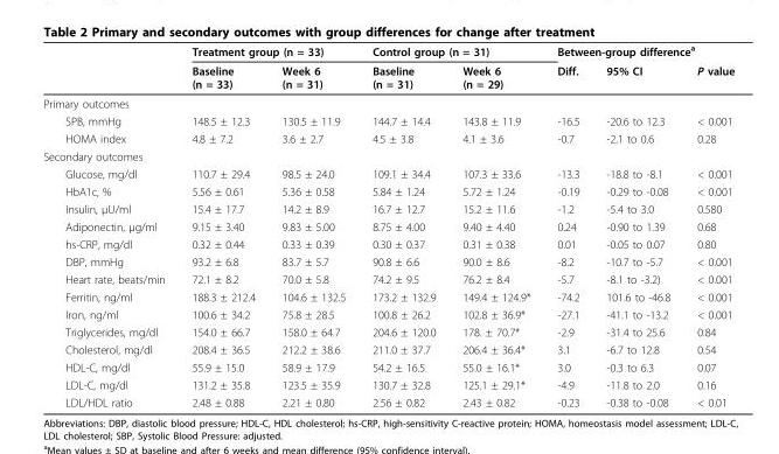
<table><thead><tr><td rowspan="2"></td><td colspan="2">Treatment group (n = 33)</td><td colspan="2">Control group (n = 31)</td><td colspan="3">Between-group difference<sup>a</sup></td></tr><tr><td>Baseline (n = 33)</td><td>Week 6 (n = 31)</td><td>Baseline (n = 31)</td><td>Week 6 (n = 29)</td><td>Diff.</td><td>95% CI</td><td>P value</td></tr></thead><tbody><tr><td colspan="8">Primary outcomes</td></tr><tr><td>SPB, mmHg</td><td>148.5 ± 12.3</td><td>130.5 ± 11.9</td><td>144.7 ± 14.4</td><td>143.8 ± 11.9</td><td>-16.5</td><td>-20.6 to 12.3</td><td>&lt; 0.001</td></tr><tr><td>HOMA index</td><td>4.8 ± 7.2</td><td>3.6 ± 2.7</td><td>4.5 ± 3.8</td><td>4.1 ± 3.6</td><td>-0.7</td><td>-2.1 to 0.6</td><td>0.28</td></tr><tr><td colspan="8">Secondary outcomes</td></tr><tr><td>Glucose, mg/dl</td><td>110.7 ± 29.4</td><td>98.5 ± 24.0</td><td>109.1 ± 34.4</td><td>107.3 ± 33.6</td><td>-13.3</td><td>-18.8 to -8.1</td><td>&lt; 0.001</td></tr><tr><td>HbA1c, %</td><td>5.56 ± 0.61</td><td>5.36 ± 0.58</td><td>5.84 ± 1.24</td><td>5.72 ± 1.24</td><td>-0.19</td><td>-0.29 to -0.08</td><td>&lt; 0.001</td></tr><tr><td>Insulin, μU/ml</td><td>15.4 ± 17.7</td><td>14.2 ± 8.9</td><td>16.7 ± 12.7</td><td>15.2 ± 11.6</td><td>-1.2</td><td>-5.4 to 3.0</td><td>0.580</td></tr><tr><td>Adiponectin, μg/ml</td><td>9.15 ± 3.40</td><td>9.83 ± 5.00</td><td>8.75 ± 4.00</td><td>9.40 ± 4.40</td><td>0.24</td><td>-0.90 to 1.39</td><td>0.68</td></tr><tr><td>hs-CRP, mg/dl</td><td>0.32 ± 0.44</td><td>0.33 ± 0.39</td><td>0.30 ± 0.37</td><td>0.31 ± 0.38</td><td>0.01</td><td>-0.05 to 0.07</td><td>0.80</td></tr><tr><td>DBP, mmHg</td><td>93.2 ± 6.8</td><td>83.7 ± 5.7</td><td>90.8 ± 6.6</td><td>90.0 ± 8.6</td><td>-8.2</td><td>-10.7 to -5.7</td><td>&lt; 0.001</td></tr><tr><td>Heart rate, beats/min</td><td>72.1 ± 8.2</td><td>70.0 ± 5.8</td><td>74.2 ± 9.5</td><td>76.2 ± 8.4</td><td>-5.7</td><td>-8.1 to -3.2)</td><td>&lt; 0.001</td></tr><tr><td>Ferritin, ng/ml</td><td>188.3 ± 212.4</td><td>104.6 ± 132.5</td><td>173.2 ± 132.9</td><td>149.4 ± 124.9*</td><td>-74.2</td><td>101.6 to -46.8</td><td>&lt; 0.001</td></tr><tr><td>Iron, ng/ml</td><td>100.6 ± 34.2</td><td>75.8 ± 28.5</td><td>100.8 ± 26.2</td><td>102.8 ± 36.9*</td><td>-27.1</td><td>-41.1 to -13.2</td><td>&lt; 0.001</td></tr><tr><td>Triglycerides, mg/dl</td><td>154.0 ± 66.7</td><td>158.0 ± 64.7</td><td>204.6 ± 120.0</td><td>178. ± 70.7*</td><td>-2.9</td><td>-31.4 to 25.6</td><td>0.84</td></tr><tr><td>Cholesterol, mg/dl</td><td>208.4 ± 36.5</td><td>212.2 ± 38.6</td><td>211.0 ± 37.7</td><td>206.4 ± 36.4*</td><td>3.1</td><td>-6.7 to 12.8</td><td>0.54</td></tr><tr><td>HDL-C, mg/dl</td><td>55.9 ± 15.0</td><td>58.9 ± 17.9</td><td>54.2 ± 16.5</td><td>55.0 ± 16.1*</td><td>3.0</td><td>-0.3 to 6.3</td><td>0.07</td></tr><tr><td>LDL-C, mg/dl</td><td>131.2 ± 35.8</td><td>123.5 ± 35.9</td><td>130.7 ± 32.8</td><td>125.1 ± 29.1*</td><td>-4.9</td><td>-11.8 to 2.0</td><td>0.16</td></tr><tr><td>LDL/HDL ratio</td><td>2.48 ± 0.88</td><td>2.21 ± 0.80</td><td>2.56 ± 0.82</td><td>2.43 ± 0.82</td><td>-0.23</td><td>-0.38 to -0.08</td><td>&lt; 0.01</td></tr></tbody></table>